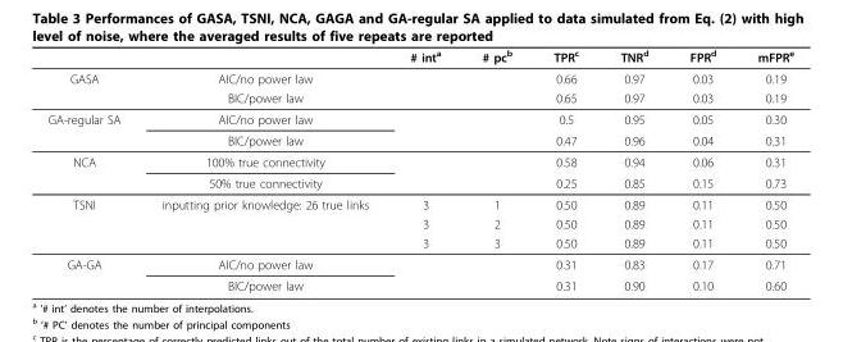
<table><thead><tr><td></td><td></td><td># inta</td><td># pcb</td><td>TPRc</td><td>TNRd</td><td>FPRd</td><td>mFPRe</td></tr></thead><tbody><tr><td rowspan="2">GASA</td><td>AIC/no power law</td><td></td><td></td><td>0.66</td><td>0.97</td><td>0.03</td><td>0.19</td></tr><tr><td>BIC/power law</td><td></td><td></td><td>0.65</td><td>0.97</td><td>0.03</td><td>0.19</td></tr><tr><td rowspan="2">GA-regular SA</td><td>AIC/no power law</td><td></td><td></td><td>0.5</td><td>0.95</td><td>0.05</td><td>0.30</td></tr><tr><td>BIC/power law</td><td></td><td></td><td>0.47</td><td>0.96</td><td>0.04</td><td>0.31</td></tr><tr><td rowspan="2">NCA</td><td>100% true connectivity</td><td></td><td></td><td>0.58</td><td>0.94</td><td>0.06</td><td>0.31</td></tr><tr><td>50% true connectivity</td><td></td><td></td><td>0.25</td><td>0.85</td><td>0.15</td><td>0.73</td></tr><tr><td rowspan="3">TSNI</td><td>inputting prior knowledge: 26 true links</td><td>3</td><td>1</td><td>0.50</td><td>0.89</td><td>0.11</td><td>0.50</td></tr><tr><td></td><td>3</td><td>2</td><td>0.50</td><td>0.89</td><td>0.11</td><td>0.50</td></tr><tr><td></td><td>3</td><td>3</td><td>0.50</td><td>0.89</td><td>0.11</td><td>0.50</td></tr><tr><td rowspan="2">GA-GA</td><td>AIC/no power law</td><td></td><td></td><td>0.31</td><td>0.83</td><td>0.17</td><td>0.71</td></tr><tr><td>BIC/power law</td><td></td><td></td><td>0.31</td><td>0.90</td><td>0.10</td><td>0.60</td></tr></tbody></table>